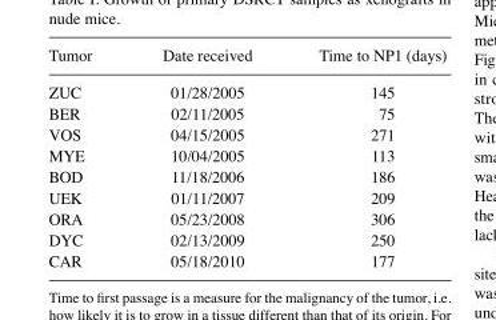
<table><thead><tr><td>Tumor</td><td>Date received</td><td>Time to NP1 (days)</td></tr></thead><tbody><tr><td>ZUC</td><td>01/28/2005</td><td>145</td></tr><tr><td>BER</td><td>02/11/2005</td><td>75</td></tr><tr><td>VOS</td><td>04/15/2005</td><td>271</td></tr><tr><td>MYE</td><td>10/04/2005</td><td>113</td></tr><tr><td>BOD</td><td>11/18/2006</td><td>186</td></tr><tr><td>UEK</td><td>01/11/2007</td><td>209</td></tr><tr><td>ORA</td><td>05/23/2008</td><td>306</td></tr><tr><td>DYC</td><td>02/13/2009</td><td>250</td></tr><tr><td>CAR</td><td>05/18/2010</td><td>177</td></tr></tbody></table>